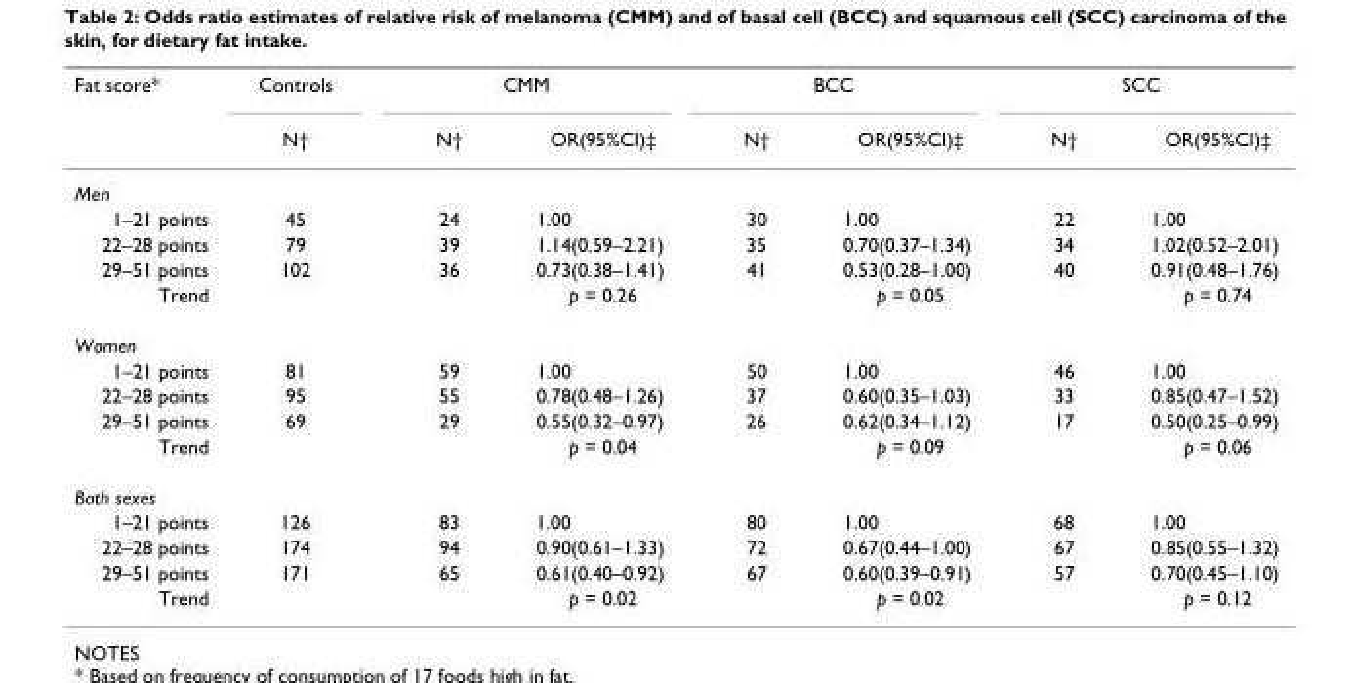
<table><thead><tr><td rowspan="2">Fat score*</td><td rowspan="2">Controls N†</td><td colspan="2">CMM</td><td colspan="2">BCC</td><td colspan="2">SCC</td></tr><tr><td>N†</td><td>OR(95%CI)‡</td><td>N†</td><td>OR(95%CI)‡</td><td>N†</td><td>OR(95%CI)‡</td></tr></thead><tbody><tr><td colspan="8">Men</td></tr><tr><td>1–21 points</td><td>45</td><td>24</td><td>1.00</td><td>30</td><td>1.00</td><td>22</td><td>1.00</td></tr><tr><td>22–28 points</td><td>79</td><td>39</td><td>1.14(0.59–2.21)</td><td>35</td><td>0.70(0.37–1.34)</td><td>34</td><td>1.02(0.52–2.01)</td></tr><tr><td>29–51 points</td><td>102</td><td>36</td><td>0.73(0.38–1.41)</td><td>41</td><td>0.53(0.28–1.00)</td><td>40</td><td>0.91(0.48–1.76)</td></tr><tr><td>Trend</td><td></td><td></td><td>p = 0.26</td><td></td><td>p = 0.05</td><td></td><td>p = 0.74</td></tr><tr><td colspan="8">Women</td></tr><tr><td>1–21 points</td><td>81</td><td>59</td><td>1.00</td><td>50</td><td>1.00</td><td>46</td><td>1.00</td></tr><tr><td>22–28 points</td><td>95</td><td>55</td><td>0.78(0.48–1.26)</td><td>37</td><td>0.60(0.35–1.03)</td><td>33</td><td>0.85(0.47–1.52)</td></tr><tr><td>29–51 points</td><td>69</td><td>29</td><td>0.55(0.32–0.97)</td><td>26</td><td>0.62(0.34–1.12)</td><td>17</td><td>0.50(0.25–0.99)</td></tr><tr><td>Trend</td><td></td><td></td><td>p = 0.04</td><td></td><td>p = 0.09</td><td></td><td>p = 0.06</td></tr><tr><td colspan="8">Both sexes</td></tr><tr><td>1–21 points</td><td>126</td><td>83</td><td>1.00</td><td>80</td><td>1.00</td><td>68</td><td>1.00</td></tr><tr><td>22–28 points</td><td>174</td><td>94</td><td>0.90(0.61–1.33)</td><td>72</td><td>0.67(0.44–1.00)</td><td>67</td><td>0.85(0.55–1.32)</td></tr><tr><td>29–51 points</td><td>171</td><td>65</td><td>0.61(0.40–0.92)</td><td>67</td><td>0.60(0.39–0.91)</td><td>57</td><td>0.70(0.45–1.10)</td></tr><tr><td>Trend</td><td></td><td></td><td>p = 0.02</td><td></td><td>p = 0.02</td><td></td><td>p = 0.12</td></tr></tbody></table>